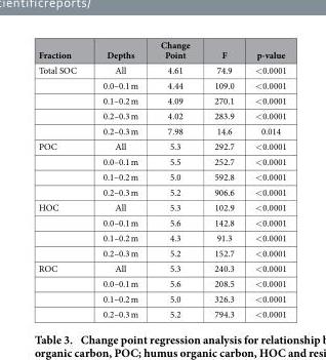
<table><thead><tr><td>Fraction</td><td>Depths</td><td>Change Point</td><td>F</td><td>p-value</td></tr></thead><tbody><tr><td rowspan="5">Total SOC</td><td>All</td><td>4.61</td><td>74.9</td><td>&lt; 0.0001</td></tr><tr><td>0.0–0.1 m</td><td>4.44</td><td>109.0</td><td>&lt; 0.0001</td></tr><tr><td>0.1–0.2 m</td><td>4.09</td><td>270.1</td><td>&lt; 0.0001</td></tr><tr><td>0.2–0.3 m</td><td>4.02</td><td>283.9</td><td>&lt; 0.0001</td></tr><tr><td>0.2–0.3 m</td><td>7.98</td><td>14.6</td><td>0.014</td></tr><tr><td rowspan="4">POC</td><td>All</td><td>5.3</td><td>292.7</td><td>&lt; 0.0001</td></tr><tr><td>0.0–0.1 m</td><td>5.5</td><td>252.7</td><td>&lt; 0.0001</td></tr><tr><td>0.1–0.2 m</td><td>5.0</td><td>592.8</td><td>&lt; 0.0001</td></tr><tr><td>0.2–0.3 m</td><td>5.2</td><td>906.6</td><td>&lt; 0.0001</td></tr><tr><td rowspan="4">HOC</td><td>All</td><td>5.3</td><td>102.9</td><td>&lt; 0.0001</td></tr><tr><td>0.0–0.1 m</td><td>5.6</td><td>142.8</td><td>&lt; 0.0001</td></tr><tr><td>0.1–0.2 m</td><td>4.3</td><td>91.3</td><td>&lt; 0.0001</td></tr><tr><td>0.2–0.3 m</td><td>5.2</td><td>152.7</td><td>&lt; 0.0001</td></tr><tr><td rowspan="4">ROC</td><td>All</td><td>5.3</td><td>240.3</td><td>&lt; 0.0001</td></tr><tr><td>0.0–0.1 m</td><td>5.6</td><td>208.5</td><td>&lt; 0.0001</td></tr><tr><td>0.1–0.2 m</td><td>5.0</td><td>326.3</td><td>&lt; 0.0001</td></tr><tr><td>0.2–0.3 m</td><td>5.2</td><td>794.3</td><td>&lt; 0.0001</td></tr></tbody></table>